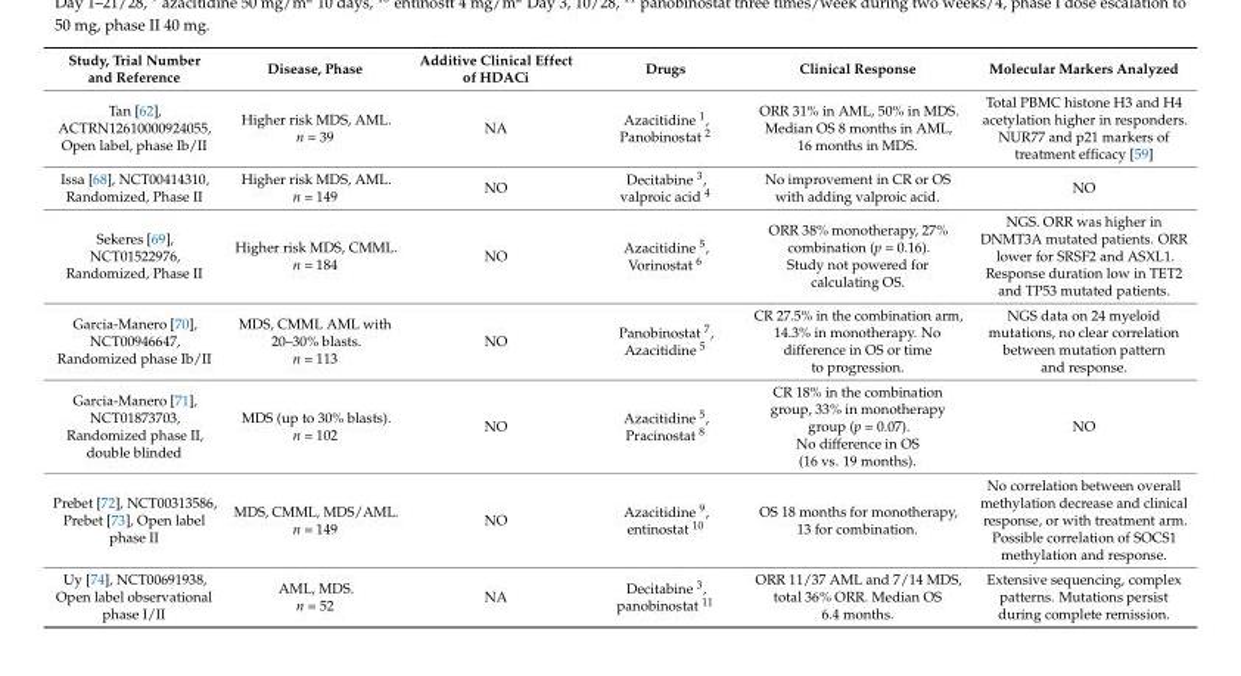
<table><thead><tr><td>Study, Trial Number and Reference</td><td>Disease, Phase</td><td>Additive Clinical Effect of HDACi</td><td>Drugs</td><td>Clinical Response</td><td>Molecular Markers Analyzed</td></tr></thead><tbody><tr><td>Tan [62], ACTRN12610000924055, Open label, phase Ib/II</td><td>Higher risk MDS, AML. n = 39</td><td>NA</td><td>Azacitidine <sup>1</sup>, Panobinostat <sup>2</sup></td><td>ORR 31% in AML, 50% in MDS. Median OS 8 months in AML, 16 months in MDS.</td><td>Total PBMC histone H3 and H4 acetylation higher in responders. NUR77 and p21 markers of treatment efficacy [59]</td></tr><tr><td>Issa [68], NCT00414310, Randomized, Phase II</td><td>Higher risk MDS, AML. n = 149</td><td>NO</td><td>Decitabine <sup>3</sup>, valproic acid <sup>4</sup></td><td>No improvement in CR or OS with adding valproic acid.</td><td>NO</td></tr><tr><td>Sekeres [69], NCT01522976, Randomized, Phase II</td><td>Higher risk MDS, CMML. n = 184</td><td>NO</td><td>Azacitidine <sup>5</sup>, Vorinostat <sup>6</sup></td><td>ORR 38% monotherapy, 27% combination (p = 0.16). Study not powered for calculating OS.</td><td>NGS. ORR was higher in DNMT3A mutated patients. ORR lower for SRSF2 and ASXL1. Response duration low in TET2 and TP53 mutated patients.</td></tr><tr><td>Garcia-Manero [70], NCT00946647, Randomized phase Ib/II</td><td>MDS, CMML AML with 20–30% blasts. n = 113</td><td>NO</td><td>Panobinostat <sup>7</sup>, Azacitidine <sup>5</sup></td><td>CR 27.5% in the combination arm, 14.3% in monotherapy. No difference in OS or time to progression.</td><td>NGS data on 24 myeloid mutations, no clear correlation between mutation pattern and response.</td></tr><tr><td>Garcia-Manero [71], NCT01873703, Randomized phase II, double blinded</td><td>MDS (up to 30% blasts). n = 102</td><td>NO</td><td>Azacitidine <sup>5</sup>, Pracinostat <sup>8</sup></td><td>CR 18% in the combination group, 33% in monotherapy group (p = 0.07). No difference in OS (16 vs. 19 months).</td><td>NO</td></tr><tr><td>Prebet [72], NCT00313586, Prebet [73], Open label phase II</td><td>MDS, CMML, MDS/AML. n = 149</td><td>NO</td><td>Azacitidine <sup>9</sup>, entinostat <sup>10</sup></td><td>OS 18 months for monotherapy, 13 for combination.</td><td>No correlation between overall methylation decrease and clinical response, or with treatment arm. Possible correlation of SOCS1 methylation and response.</td></tr><tr><td>Uy [74], NCT00691938, Open label observational phase I/II</td><td>AML, MDS. n = 52</td><td>NA</td><td>Decitabine <sup>3</sup>, panobinostat <sup>11</sup></td><td>ORR 11/37 AML and 7/14 MDS, total 36% ORR. Median OS 6.4 months.</td><td>Extensive sequencing, complex patterns. Mutations persist during complete remission.</td></tr></tbody></table>